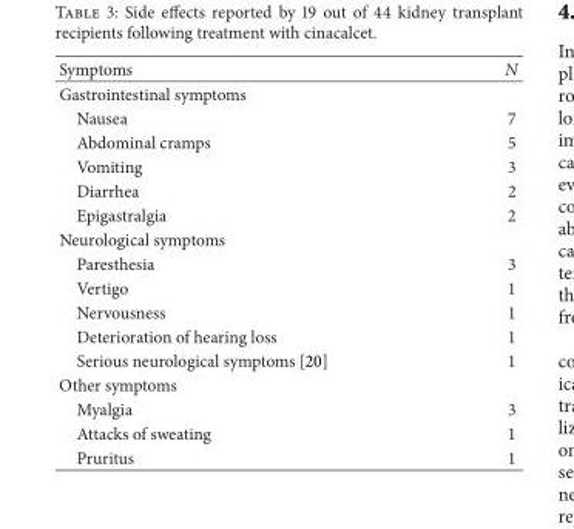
<table><thead><tr><td>Symptoms</td><td></td></tr></thead><tbody><tr><td colspan="2">Gastrointestinal symptoms</td></tr><tr><td>Nausea</td><td>7</td></tr><tr><td>Abdominal cramps</td><td>5</td></tr><tr><td>Vomiting</td><td>3</td></tr><tr><td>Diarrhea</td><td>2</td></tr><tr><td>Epigastralgia</td><td>2</td></tr><tr><td colspan="2">Neurological symptoms</td></tr><tr><td>Paresthesia</td><td>3</td></tr><tr><td>Vertigo</td><td>1</td></tr><tr><td>Nervousness</td><td>1</td></tr><tr><td>Deterioration of hearing loss</td><td>1</td></tr><tr><td>Serious neurological symptoms [20]</td><td>1</td></tr><tr><td colspan="2">Other symptoms</td></tr><tr><td>Myalgia</td><td>3</td></tr><tr><td>Attacks of sweating</td><td>1</td></tr><tr><td>Pruritus</td><td>1</td></tr></tbody></table>